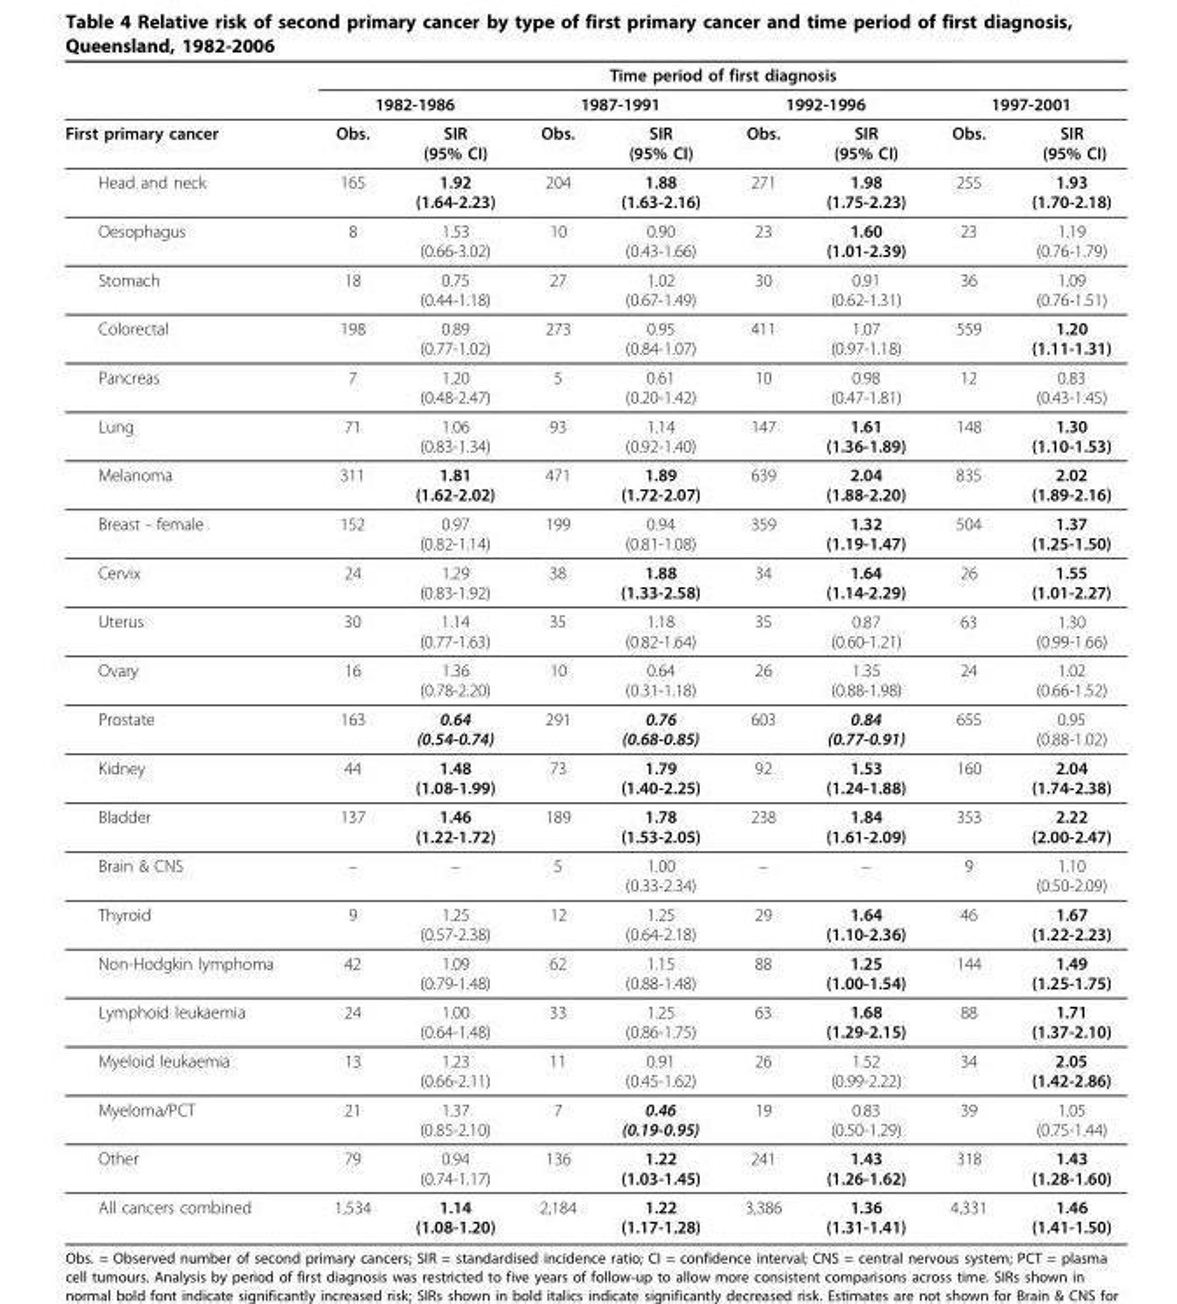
<table><thead><tr><td rowspan="3">First primary cancer</td><td colspan="8">Time period of first diagnosis</td></tr><tr><td colspan="2">1982-1986</td><td colspan="2">1987-1991</td><td colspan="2">1992-1996</td><td colspan="2">1997-2001</td></tr><tr><td>Obs.</td><td>SIR (95% CI)</td><td>Obs.</td><td>SIR (95% CI)</td><td>Obs.</td><td>SIR (95% CI)</td><td>Obs.</td><td>SIR (95% CI)</td></tr></thead><tbody><tr><td>Head and neck</td><td>165</td><td>1.92 (1.64-2.23)</td><td>204</td><td>1.88 (1.63-2.16)</td><td>271</td><td>1.98 (1.75-2.23)</td><td>255</td><td>1.93 (1.70-2.18)</td></tr><tr><td>Oesophagus</td><td>8</td><td>1.53 (0.66-3.02)</td><td>10</td><td>0.90 (0.43-1.66)</td><td>23</td><td>1.60 (1.01-2.39)</td><td>23</td><td>1.19 (0.76-1.79)</td></tr><tr><td>Stomach</td><td>18</td><td>0.75 (0.44-1.18)</td><td>27</td><td>1.02 (0.67-1.49)</td><td>30</td><td>0.91 (0.62-1.31)</td><td>36</td><td>1.09 (0.76-1.51)</td></tr><tr><td>Colorectal</td><td>198</td><td>0.89 (0.77-1.02)</td><td>273</td><td>0.95 (0.84-1.07)</td><td>411</td><td>1.07 (0.97-1.18)</td><td>559</td><td>1.20 (1.11-1.31)</td></tr><tr><td>Pancreas</td><td>7</td><td>1.20 (0.48-2.47)</td><td>5</td><td>0.61 (0.20-1.42)</td><td>10</td><td>0.98 (0.47-1.81)</td><td>12</td><td>0.83 (0.43-1.45)</td></tr><tr><td>Lung</td><td>71</td><td>1.06 (0.83-1.34)</td><td>93</td><td>1.14 (0.92-1.40)</td><td>147</td><td>1.61 (1.36-1.89)</td><td>148</td><td>1.30 (1.10-1.53)</td></tr><tr><td>Melanoma</td><td>311</td><td>1.81 (1.62-2.02)</td><td>471</td><td>1.89 (1.72-2.07)</td><td>639</td><td>2.04 (1.88-2.20)</td><td>835</td><td>2.02 (1.89-2.16)</td></tr><tr><td>Breast - female</td><td>152</td><td>0.97 (0.82-1.14)</td><td>199</td><td>0.94 (0.81-1.08)</td><td>359</td><td>1.32 (1.19-1.47)</td><td>504</td><td>1.37 (1.25-1.50)</td></tr><tr><td>Cervix</td><td>24</td><td>1.29 (0.83-1.92)</td><td>38</td><td>1.88 (1.33-2.58)</td><td>34</td><td>1.64 (1.14-2.29)</td><td>26</td><td>1.55 (1.01-2.27)</td></tr><tr><td>Uterus</td><td>30</td><td>1.14 (0.77-1.63)</td><td>35</td><td>1.18 (0.82-1.64)</td><td>35</td><td>0.87 (0.60-1.21)</td><td>63</td><td>1.30 (0.99-1.66)</td></tr><tr><td>Ovary</td><td>16</td><td>1.36 (0.78-2.20)</td><td>10</td><td>0.64 (0.31-1.18)</td><td>26</td><td>1.35 (0.88-1.98)</td><td>24</td><td>1.02 (0.66-1.52)</td></tr><tr><td>Prostate</td><td>163</td><td>0.64 (0.54-0.74)</td><td>291</td><td>0.76 (0.68-0.85)</td><td>603</td><td>0.84 (0.77-0.91)</td><td>655</td><td>0.95 (0.88-1.02)</td></tr><tr><td>Kidney</td><td>44</td><td>1.48 (1.08-1.99)</td><td>73</td><td>1.79 (1.40-2.25)</td><td>92</td><td>1.53 (1.24-1.88)</td><td>160</td><td>2.04 (1.74-2.38)</td></tr><tr><td>Bladder</td><td>137</td><td>1.46 (1.22-1.72)</td><td>189</td><td>1.78 (1.53-2.05)</td><td>238</td><td>1.84 (1.61-2.09)</td><td>353</td><td>2.22 (2.00-2.47)</td></tr><tr><td>Brain &amp; CNS</td><td>–</td><td>–</td><td>5</td><td>1.00 (0.33-2.34)</td><td>–</td><td>–</td><td>9</td><td>1.10 (0.50-2.09)</td></tr><tr><td>Thyroid</td><td>9</td><td>1.25 (0.57-2.38)</td><td>12</td><td>1.25 (0.64-2.18)</td><td>29</td><td>1.64 (1.10-2.36)</td><td>46</td><td>1.67 (1.22-2.23)</td></tr><tr><td>Non-Hodgkin lymphoma</td><td>42</td><td>1.09 (0.79-1.48)</td><td>62</td><td>1.15 (0.88-1.48)</td><td>88</td><td>1.25 (1.00-1.54)</td><td>144</td><td>1.49 (1.25-1.75)</td></tr><tr><td>Lymphoid leukaemia</td><td>24</td><td>1.00 (0.64-1.48)</td><td>33</td><td>1.25 (0.86-1.75)</td><td>63</td><td>1.68 (1.29-2.15)</td><td>88</td><td>1.71 (1.37-2.10)</td></tr><tr><td>Myeloid leukaemia</td><td>13</td><td>1.23 (0.66-2.11)</td><td>11</td><td>0.91 (0.45-1.62)</td><td>26</td><td>1.52 (0.99-2.22)</td><td>34</td><td>2.05 (1.42-2.86)</td></tr><tr><td>Myeloma/PCT</td><td>21</td><td>1.37 (0.85-2.10)</td><td>7</td><td>0.46 (0.19-0.95)</td><td>19</td><td>0.83 (0.50-1.29)</td><td>39</td><td>1.05 (0.75-1.44)</td></tr><tr><td>Other</td><td>79</td><td>0.94 (0.74-1.17)</td><td>136</td><td>1.22 (1.03-1.45)</td><td>241</td><td>1.43 (1.26-1.62)</td><td>318</td><td>1.43 (1.28-1.60)</td></tr><tr><td>All cancers combined</td><td>1,534</td><td>1.14 (1.08-1.20)</td><td>2,184</td><td>1.22 (1.17-1.28)</td><td>3,386</td><td>1.36 (1.31-1.41)</td><td>4,331</td><td>1.46 (1.41-1.50)</td></tr></tbody></table>